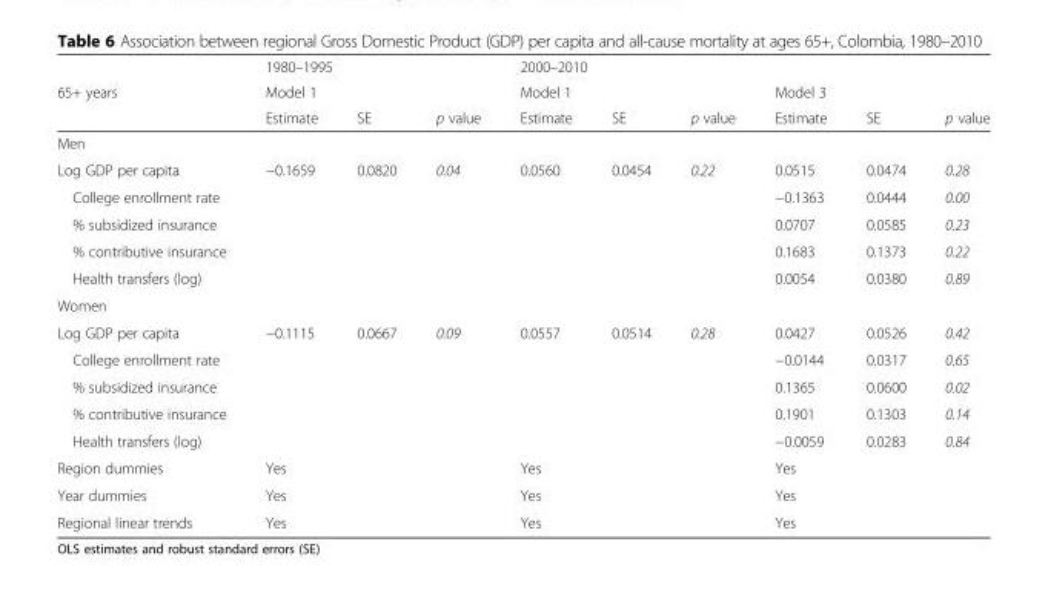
<table><thead><tr><td rowspan="3">65+ years</td><td rowspan="2" colspan="3">1980–1995 Model 1</td><td rowspan="2" colspan="3">2000–2010 Model 1</td><td></td><td></td><td></td></tr><tr><td colspan="3">Model 3</td></tr><tr><td>Estimate</td><td>SE</td><td>p value</td><td>Estimate</td><td>SE</td><td>p value</td><td>Estimate</td><td>SE</td><td>p value</td></tr></thead><tbody><tr><td colspan="10">Men</td></tr><tr><td>Log GDP per capita</td><td>−0.1659</td><td>0.0820</td><td>0.04</td><td>0.0560</td><td>0.0454</td><td>0.22</td><td>0.0515</td><td>0.0474</td><td>0.28</td></tr><tr><td>College enrollment rate</td><td></td><td></td><td></td><td></td><td></td><td></td><td>−0.1363</td><td>0.0444</td><td>0.00</td></tr><tr><td>% subsidized insurance</td><td></td><td></td><td></td><td></td><td></td><td></td><td>0.0707</td><td>0.0585</td><td>0.23</td></tr><tr><td>% contributive insurance</td><td></td><td></td><td></td><td></td><td></td><td></td><td>0.1683</td><td>0.1373</td><td>0.22</td></tr><tr><td>Health transfers (log)</td><td></td><td></td><td></td><td></td><td></td><td></td><td>0.0054</td><td>0.0380</td><td>0.89</td></tr><tr><td colspan="10">Women</td></tr><tr><td>Log GDP per capita</td><td>−0.1115</td><td>0.0667</td><td>0.09</td><td>0.0557</td><td>0.0514</td><td>0.28</td><td>0.0427</td><td>0.0526</td><td>0.42</td></tr><tr><td>College enrollment rate</td><td></td><td></td><td></td><td></td><td></td><td></td><td>−0.0144</td><td>0.0317</td><td>0.65</td></tr><tr><td>% subsidized insurance</td><td></td><td></td><td></td><td></td><td></td><td></td><td>0.1365</td><td>0.0600</td><td>0.02</td></tr><tr><td>% contributive insurance</td><td></td><td></td><td></td><td></td><td></td><td></td><td>0.1901</td><td>0.1303</td><td>0.14</td></tr><tr><td>Health transfers (log)</td><td></td><td></td><td></td><td></td><td></td><td></td><td>−0.0059</td><td>0.0283</td><td>0.84</td></tr><tr><td>Region dummies</td><td colspan="3">Yes</td><td colspan="3">Yes</td><td colspan="3">Yes</td></tr><tr><td>Year dummies</td><td colspan="3">Yes</td><td colspan="3">Yes</td><td colspan="3">Yes</td></tr><tr><td>Regional linear trends</td><td colspan="3">Yes</td><td colspan="3">Yes</td><td colspan="3">Yes</td></tr></tbody></table>